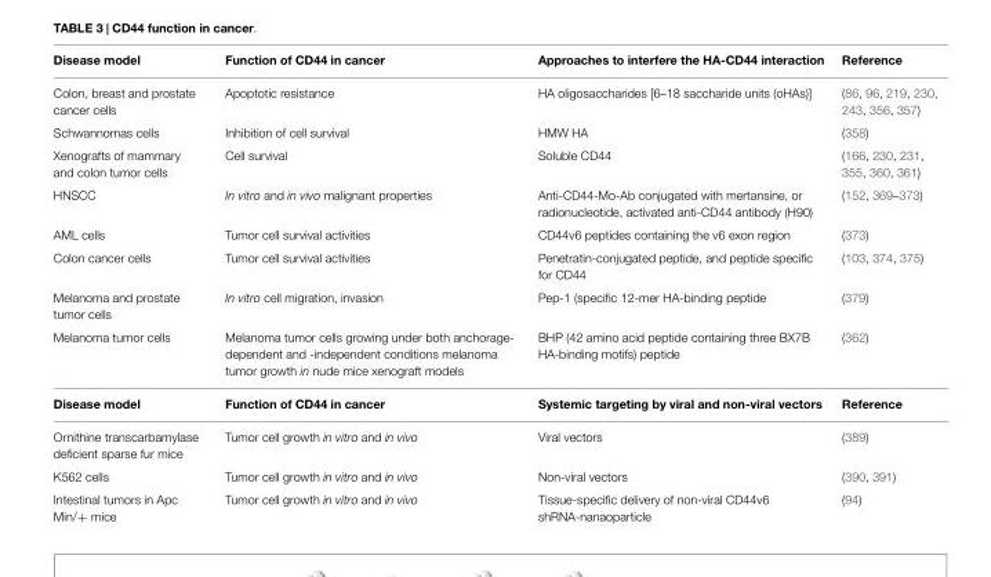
<table><thead><tr><td>Disease model</td><td>Function of CD44 in cancer</td><td>Approaches to interfere the HA-CD44 interaction</td><td>Reference</td></tr></thead><tbody><tr><td>Colon, breast and prostate cancer cells</td><td>Apoptotic resistance</td><td>HA oligosaccharides [6–18 saccharide units (oHAs)]</td><td>(86, 96, 219, 230, 243, 356, 357)</td></tr><tr><td>Schwannomas cells</td><td>Inhibition of cell survival</td><td>HMW HA</td><td>(358)</td></tr><tr><td>Xenografts of mammary and colon tumor cells</td><td>Cell survival</td><td>Soluble CD44</td><td>(166, 230, 231, 355, 360, 361)</td></tr><tr><td>HNSCC</td><td>In vitro and in vivo malignant properties</td><td>Anti-CD44-Mo-Ab conjugated with mertansine, or radionucleotide, activated anti-CD44 antibody (H90)</td><td>(152, 369–373)</td></tr><tr><td>AML cells</td><td>Tumor cell survival activities</td><td>CD44v6 peptides containing the v6 exon region</td><td>(373)</td></tr><tr><td>Colon cancer cells</td><td>Tumor cell survival activities</td><td>Penetratin-conjugated peptide, and peptide specific for CD44</td><td>(103, 374, 375)</td></tr><tr><td>Melanoma and prostate tumor cells</td><td>In vitro cell migration, invasion</td><td>Pep-1 (specific 12-mer HA-binding peptide</td><td>(379)</td></tr><tr><td>Melanoma tumor cells</td><td>Melanoma tumor cells growing under both anchorage- dependent and -independent conditions melanoma tumor growth in nude mice xenograft models</td><td>BHP (42 amino acid peptide containing three BX7B HA-binding motifs) peptide</td><td>(362)</td></tr><tr><td>Disease model</td><td>Function of CD44 in cancer</td><td>Systemic targeting by viral and non-viral vectors</td><td>Reference</td></tr><tr><td>Ornithine transcarbamylase deficient sparse fur mice</td><td>Tumor cell growth in vitro and in vivo</td><td>Viral vectors</td><td>(389)</td></tr><tr><td>K562 cells</td><td>Tumor cell growth in vitro and in vivo</td><td>Non-viral vectors</td><td>(390, 391)</td></tr><tr><td>Intestinal tumors in Apc Min/+ mice</td><td>Tumor cell growth in vitro and in vivo</td><td>Tissue-specific delivery of non-viral CD44v6 shRNA-nanaoparticle</td><td>(94)</td></tr></tbody></table>